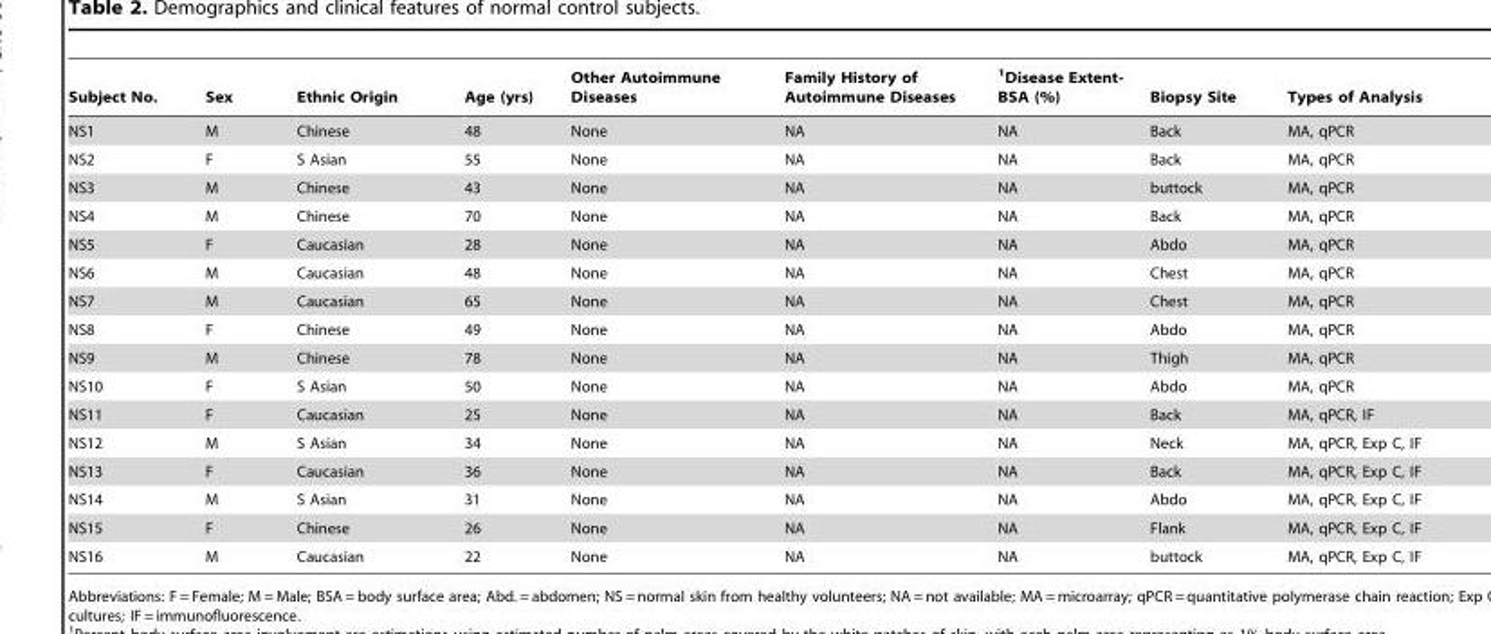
<table><thead><tr><td>Subject No.</td><td>Sex</td><td>Ethnic Origin</td><td>Age (yrs)</td><td>Other Autoimmune Diseases</td><td>Family History of Autoimmune Diseases</td><td>1Disease Extent- BSA (%)</td><td>Biopsy Site</td><td>Types of Analysis</td></tr></thead><tbody><tr><td>NS1</td><td>M</td><td>Chinese</td><td>48</td><td>None</td><td>NA</td><td>NA</td><td>Back</td><td>MA, qPCR</td></tr><tr><td>NS2</td><td>F</td><td>S Asian</td><td>55</td><td>None</td><td>NA</td><td>NA</td><td>Back</td><td>MA, qPCR</td></tr><tr><td>NS3</td><td>M</td><td>Chinese</td><td>43</td><td>None</td><td>NA</td><td>NA</td><td>buttock</td><td>MA, qPCR</td></tr><tr><td>NS4</td><td>M</td><td>Chinese</td><td>70</td><td>None</td><td>NA</td><td>NA</td><td>Back</td><td>MA, qPCR</td></tr><tr><td>NS5</td><td>F</td><td>Caucasian</td><td>28</td><td>None</td><td>NA</td><td>NA</td><td>Abdo</td><td>MA, qPCR</td></tr><tr><td>NS6</td><td>M</td><td>Caucasian</td><td>48</td><td>None</td><td>NA</td><td>NA</td><td>Chest</td><td>MA, qPCR</td></tr><tr><td>NS7</td><td>M</td><td>Caucasian</td><td>65</td><td>None</td><td>NA</td><td>NA</td><td>Chest</td><td>MA, qPCR</td></tr><tr><td>NS8</td><td>F</td><td>Chinese</td><td>49</td><td>None</td><td>NA</td><td>NA</td><td>Abdo</td><td>MA, qPCR</td></tr><tr><td>NS9</td><td>M</td><td>Chinese</td><td>78</td><td>None</td><td>NA</td><td>NA</td><td>Thigh</td><td>MA, qPCR</td></tr><tr><td>NS10</td><td>F</td><td>S Asian</td><td>50</td><td>None</td><td>NA</td><td>NA</td><td>Abdo</td><td>MA, qPCR</td></tr><tr><td>NS11</td><td>F</td><td>Caucasian</td><td>25</td><td>None</td><td>NA</td><td>NA</td><td>Back</td><td>MA, qPCR, IF</td></tr><tr><td>NS12</td><td>M</td><td>S Asian</td><td>34</td><td>None</td><td>NA</td><td>NA</td><td>Neck</td><td>MA, qPCR, Exp C, IF</td></tr><tr><td>NS13</td><td>F</td><td>Caucasian</td><td>36</td><td>None</td><td>NA</td><td>NA</td><td>Back</td><td>MA, qPCR, Exp C, IF</td></tr><tr><td>NS14</td><td>M</td><td>S Asian</td><td>31</td><td>None</td><td>NA</td><td>NA</td><td>Abdo</td><td>MA, qPCR, Exp C, IF</td></tr><tr><td>NS15</td><td>F</td><td>Chinese</td><td>26</td><td>None</td><td>NA</td><td>NA</td><td>Flank</td><td>MA, qPCR, Exp C, IF</td></tr><tr><td>NS16</td><td>M</td><td>Caucasian</td><td>22</td><td>None</td><td>NA</td><td>NA</td><td>buttock</td><td>MA, qPCR, Exp C, IF</td></tr></tbody></table>